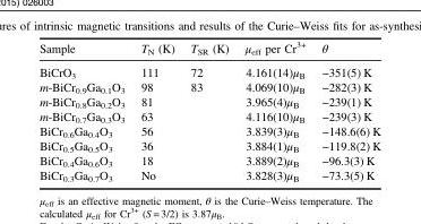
<table><thead><tr><td>Sample</td><td>T<sub>N</sub> (K)</td><td>T<sub>SR</sub> (K)</td><td>μ<sub>eff</sub> per Cr<sup>3+</sup></td><td>θ</td></tr></thead><tbody><tr><td>BiCrO<sub>3</sub></td><td>111</td><td>72</td><td>4.161(14)μ<sub>B</sub></td><td>−351(5) K</td></tr><tr><td>m-BiCr<sub>0.9</sub>Ga<sub>0.1</sub>O<sub>3</sub></td><td>98</td><td>83</td><td>4.069(10)μ<sub>B</sub></td><td>−282(3) K</td></tr><tr><td>m-BiCr<sub>0.8</sub>Ga<sub>0.2</sub>O<sub>3</sub></td><td>81</td><td></td><td>3.965(4)μ<sub>B</sub></td><td>−239(1) K</td></tr><tr><td>m-BiCr<sub>0.7</sub>Ga<sub>0.3</sub>O<sub>3</sub></td><td>63</td><td></td><td>4.116(10)μ<sub>B</sub></td><td>−239(3) K</td></tr><tr><td>BiCr<sub>0.6</sub>Ga<sub>0.4</sub>O<sub>3</sub></td><td>56</td><td></td><td>3.839(3)μ<sub>B</sub></td><td>−148.6(6) K</td></tr><tr><td>BiCr<sub>0.5</sub>Ga<sub>0.5</sub>O<sub>3</sub></td><td>36</td><td></td><td>3.884(1)μ<sub>B</sub></td><td>−119.8(2) K</td></tr><tr><td>BiCr<sub>0.4</sub>Ga<sub>0.6</sub>O<sub>3</sub></td><td>18</td><td></td><td>3.889(2)μ<sub>B</sub></td><td>−96.3(3) K</td></tr><tr><td>BiCr<sub>0.3</sub>Ga<sub>0.7</sub>O<sub>3</sub></td><td>No</td><td></td><td>3.828(3)μ<sub>B</sub></td><td>−73.3(5) K</td></tr></tbody></table>